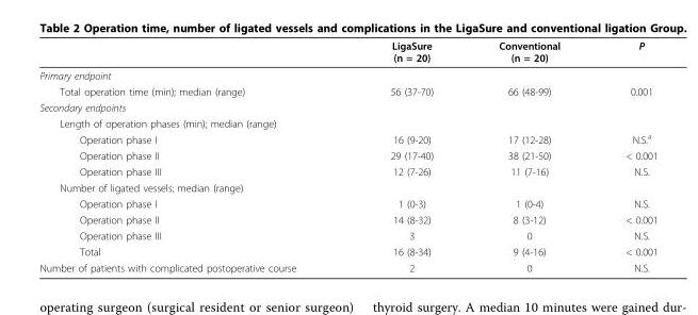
<table><thead><tr><td></td><td>LigaSure (n = 20)</td><td>Conventional (n = 20)</td><td>P</td></tr></thead><tbody><tr><td colspan="4">Primary endpoint</td></tr><tr><td>Total operation time (min); median (range)</td><td>56 (37-70)</td><td>66 (48-99)</td><td>0.001</td></tr><tr><td colspan="4">Secondary endpoints</td></tr><tr><td colspan="4">Length of operation phases (min); median (range)</td></tr><tr><td>Operation phase I</td><td>16 (9-20)</td><td>17 (12-28)</td><td>N.S.<sup>a</sup></td></tr><tr><td>Operation phase II</td><td>29 (17-40)</td><td>38 (21-50)</td><td>&lt; 0.001</td></tr><tr><td>Operation phase III</td><td>12 (7-26)</td><td>11 (7-16)</td><td>N.S.</td></tr><tr><td colspan="4">Number of ligated vessels; median (range)</td></tr><tr><td>Operation phase I</td><td>1 (0-3)</td><td>1 (0-4)</td><td>N.S.</td></tr><tr><td>Operation phase II</td><td>14 (8-32)</td><td>8 (3-12)</td><td>&lt; 0.001</td></tr><tr><td>Operation phase III</td><td>3</td><td>0</td><td>N.S.</td></tr><tr><td>Total</td><td>16 (8-34)</td><td>9 (4-16)</td><td>&lt; 0.001</td></tr><tr><td>Number of patients with complicated postoperative course</td><td>2</td><td>0</td><td>N.S.</td></tr></tbody></table>